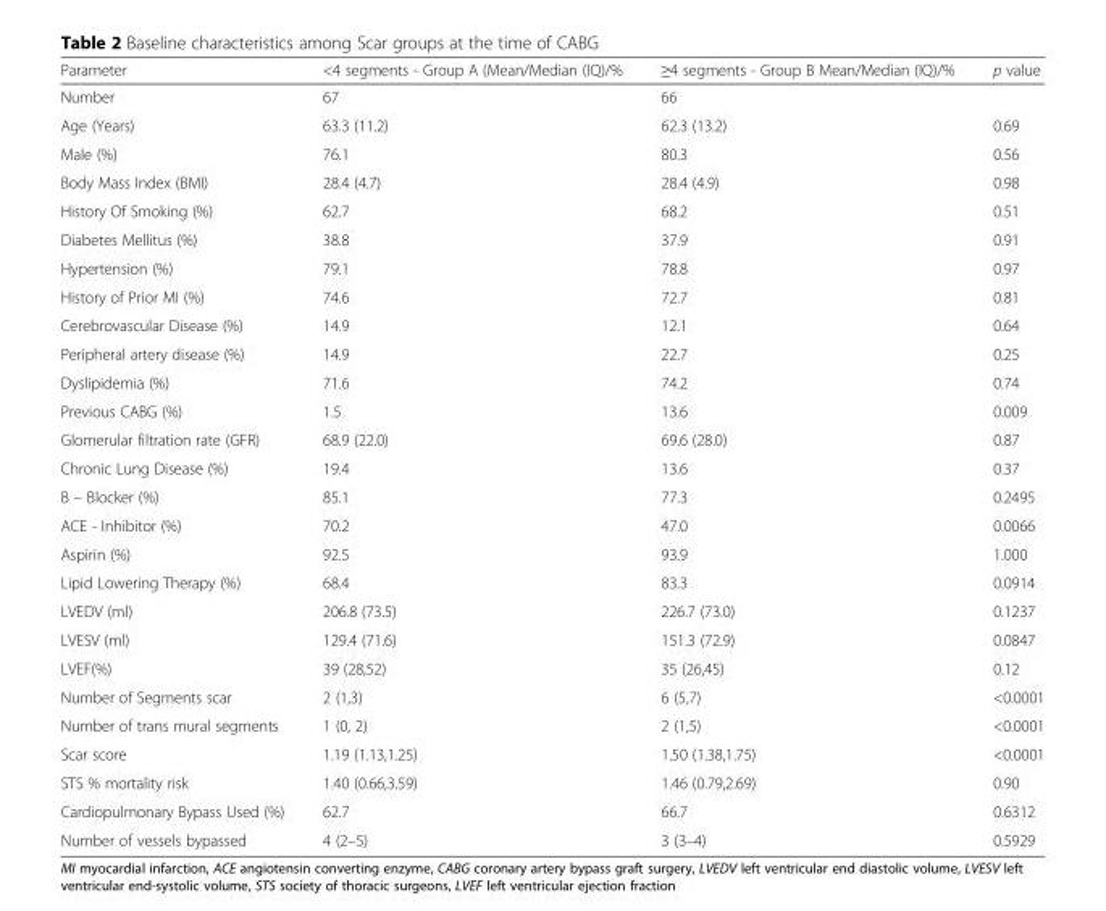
<table><thead><tr><td>Parameter</td><td>&lt;4 segments - Group A (Mean/Median (IQ)/%</td><td>≥4 segments - Group B Mean/Median (IQ)/%</td><td>p value</td></tr></thead><tbody><tr><td>Number</td><td>67</td><td>66</td><td></td></tr><tr><td>Age (Years)</td><td>63.3 (11.2)</td><td>62.3 (13.2)</td><td>0.69</td></tr><tr><td>Male (%)</td><td>76.1</td><td>80.3</td><td>0.56</td></tr><tr><td>Body Mass Index (BMI)</td><td>28.4 (4.7)</td><td>28.4 (4.9)</td><td>0.98</td></tr><tr><td>History Of Smoking (%)</td><td>62.7</td><td>68.2</td><td>0.51</td></tr><tr><td>Diabetes Mellitus (%)</td><td>38.8</td><td>37.9</td><td>0.91</td></tr><tr><td>Hypertension (%)</td><td>79.1</td><td>78.8</td><td>0.97</td></tr><tr><td>History of Prior MI (%)</td><td>74.6</td><td>72.7</td><td>0.81</td></tr><tr><td>Cerebrovascular Disease (%)</td><td>14.9</td><td>12.1</td><td>0.64</td></tr><tr><td>Peripheral artery disease (%)</td><td>14.9</td><td>22.7</td><td>0.25</td></tr><tr><td>Dyslipidemia (%)</td><td>71.6</td><td>74.2</td><td>0.74</td></tr><tr><td>Previous CABG (%)</td><td>1.5</td><td>13.6</td><td>0.009</td></tr><tr><td>Glomerular filtration rate (GFR)</td><td>68.9 (22.0)</td><td>69.6 (28.0)</td><td>0.87</td></tr><tr><td>Chronic Lung Disease (%)</td><td>19.4</td><td>13.6</td><td>0.37</td></tr><tr><td>B – Blocker (%)</td><td>85.1</td><td>77.3</td><td>0.2495</td></tr><tr><td>ACE - Inhibitor (%)</td><td>70.2</td><td>47.0</td><td>0.0066</td></tr><tr><td>Aspirin (%)</td><td>92.5</td><td>93.9</td><td>1.000</td></tr><tr><td>Lipid Lowering Therapy (%)</td><td>68.4</td><td>83.3</td><td>0.0914</td></tr><tr><td>LVEDV (ml)</td><td>206.8 (73.5)</td><td>226.7 (73.0)</td><td>0.1237</td></tr><tr><td>LVESV (ml)</td><td>129.4 (71.6)</td><td>151.3 (72.9)</td><td>0.0847</td></tr><tr><td>LVEF(%)</td><td>39 (28,52)</td><td>35 (26,45)</td><td>0.12</td></tr><tr><td>Number of Segments scar</td><td>2 (1,3)</td><td>6 (5,7)</td><td>&lt;0.0001</td></tr><tr><td>Number of trans mural segments</td><td>1 (0, 2)</td><td>2 (1,5)</td><td>&lt;0.0001</td></tr><tr><td>Scar score</td><td>1.19 (1.13,1.25)</td><td>1.50 (1.38,1.75)</td><td>&lt;0.0001</td></tr><tr><td>STS % mortality risk</td><td>1.40 (0.66,3.59)</td><td>1.46 (0.79,2.69)</td><td>0.90</td></tr><tr><td>Cardiopulmonary Bypass Used (%)</td><td>62.7</td><td>66.7</td><td>0.6312</td></tr><tr><td>Number of vessels bypassed</td><td>4 (2–5)</td><td>3 (3–4)</td><td>0.5929</td></tr></tbody></table>